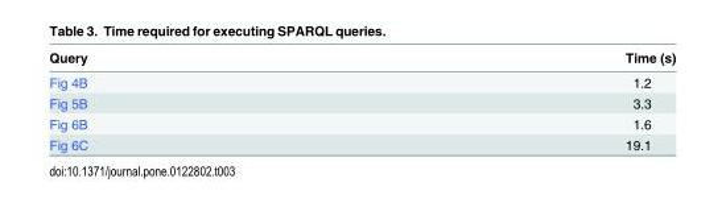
<table><thead><tr><td>Query</td><td>Time (s)</td></tr></thead><tbody><tr><td>Fig 4B</td><td>1.2</td></tr><tr><td>Fig 5B</td><td>3.3</td></tr><tr><td>Fig 6B</td><td>1.6</td></tr><tr><td>Fig 6C</td><td>19.1</td></tr></tbody></table>